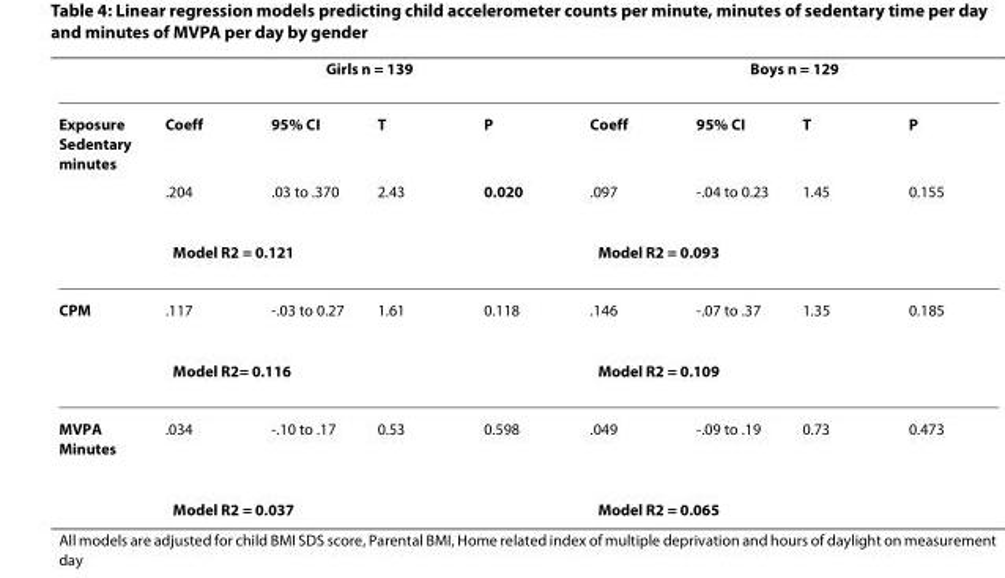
<table><thead><tr><td rowspan="2">Exposure Sedentary minutes</td><td colspan="4">Girls n = 139</td><td colspan="4">Boys n = 129</td></tr><tr><td>Coeff</td><td>95% CI</td><td>T</td><td>P</td><td>Coeff</td><td>95% CI</td><td>T</td><td>P</td></tr></thead><tbody><tr><td></td><td>.204</td><td>.03 to .370</td><td>2.43</td><td>0.020</td><td>.097</td><td>-.04 to 0.23</td><td>1.45</td><td>0.155</td></tr><tr><td></td><td colspan="4">Model R<sup>2</sup> = 0.121</td><td colspan="4">Model R<sup>2</sup> = 0.093</td></tr><tr><td rowspan="2">CPM</td><td>.117</td><td>-.03 to 0.27</td><td>1.61</td><td>0.118</td><td>.146</td><td>-.07 to .37</td><td>1.35</td><td>0.185</td></tr><tr><td colspan="4">Model R<sup>2</sup>= 0.116</td><td colspan="4">Model R<sup>2</sup> = 0.109</td></tr><tr><td rowspan="2">MVPA Minutes</td><td>.034</td><td>-.10 to .17</td><td>0.53</td><td>0.598</td><td>.049</td><td>-.09 to .19</td><td>0.73</td><td>0.473</td></tr><tr><td colspan="4">Model R<sup>2</sup> = 0.037</td><td colspan="4">Model R<sup>2</sup> = 0.065</td></tr></tbody></table>